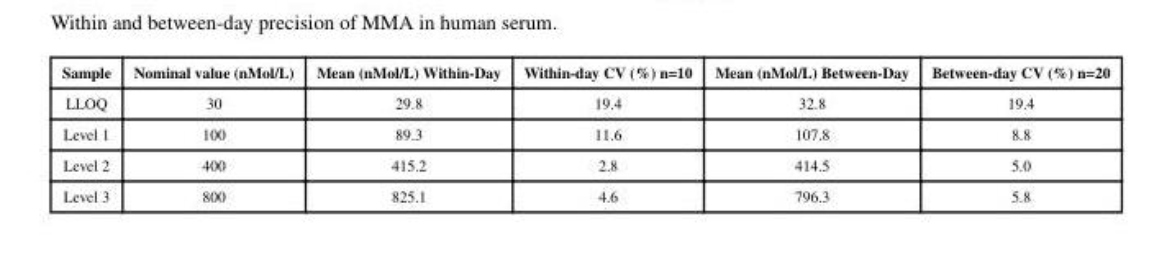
<table><thead><tr><td>Sample</td><td>Nominal value (nMol/L)</td><td>Mean (nMol/L) Within-Day</td><td>Within-day CV (%) n=10</td><td>Mean (nMol/L) Between-Day</td><td>Between-day CV (%) n=20</td></tr></thead><tbody><tr><td>LLOQ</td><td>30</td><td>29.8</td><td>19.4</td><td>32.8</td><td>19.4</td></tr><tr><td>Level 1</td><td>100</td><td>89.3</td><td>11.6</td><td>107.8</td><td>8.8</td></tr><tr><td>Level 2</td><td>400</td><td>415.2</td><td>2.8</td><td>414.5</td><td>5.0</td></tr><tr><td>Level 3</td><td>800</td><td>825.1</td><td>4.6</td><td>796.3</td><td>5.8</td></tr></tbody></table>